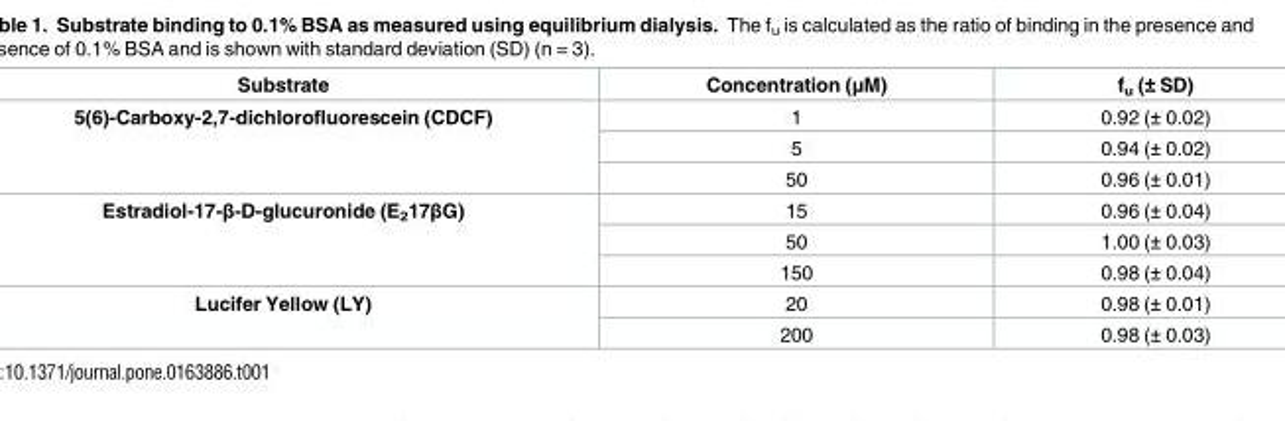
<table><thead><tr><td>Substrate</td><td>Concentration (μM)</td><td>f<sub>u</sub> (± SD)</td></tr></thead><tbody><tr><td rowspan="3">5(6)-Carboxy-2,7-dichlorofluorescein (CDCF)</td><td>1</td><td>0.92 (± 0.02)</td></tr><tr><td>5</td><td>0.94 (± 0.02)</td></tr><tr><td>50</td><td>0.96 (± 0.01)</td></tr><tr><td rowspan="3">Estradiol-17-β-D-glucuronide (E<sub>2</sub>17βG)</td><td>15</td><td>0.96 (± 0.04)</td></tr><tr><td>50</td><td>1.00 (± 0.03)</td></tr><tr><td>150</td><td>0.98 (± 0.04)</td></tr><tr><td rowspan="2">Lucifer Yellow (LY)</td><td>20</td><td>0.98 (± 0.01)</td></tr><tr><td>200</td><td>0.98 (± 0.03)</td></tr></tbody></table>